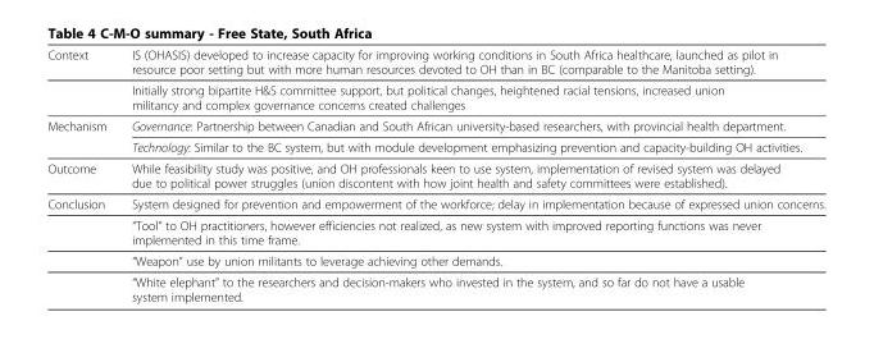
<table><thead><tr><td>Context</td><td>IS (OHASIS) developed to increase capacity for improving working conditions in South Africa healthcare, launched as pilot in resource poor setting but with more human resources devoted to OH than in BC (comparable to the Manitoba setting).</td></tr></thead><tbody><tr><td></td><td>Initially strong bipartite H&amp;S committee support, but political changes, heightened racial tensions, increased union militancy and complex governance concerns created challenges</td></tr><tr><td rowspan="2">Mechanism</td><td>Governance: Partnership between Canadian and South African university-based researchers, with provincial health department.</td></tr><tr><td>Technology: Similar to the BC system, but with module development emphasizing prevention and capacity-building OH activities.</td></tr><tr><td>Outcome</td><td>While feasibility study was positive, and OH professionals keen to use system, implementation of revised system was delayed due to political power struggles (union discontent with how joint health and safety committees were established).</td></tr><tr><td rowspan="4">Conclusion</td><td>System designed for prevention and empowerment of the workforce; delay in implementation because of expressed union concerns.</td></tr><tr><td>“Tool” to OH practitioners, however efficiencies not realized, as new system with improved reporting functions was never implemented in this time frame.</td></tr><tr><td>“Weapon” use by union militants to leverage achieving other demands.</td></tr><tr><td>“White elephant” to the researchers and decision-makers who invested in the system, and so far do not have a usable system implemented.</td></tr></tbody></table>